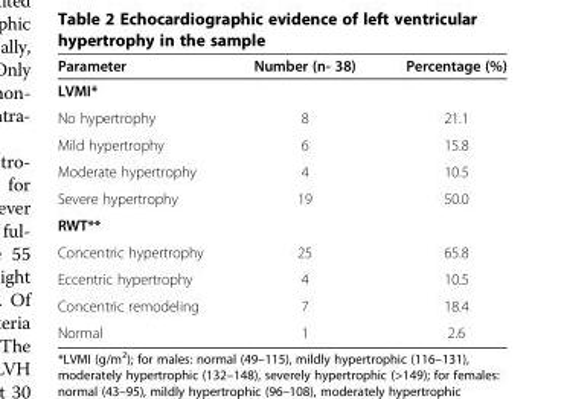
<table><thead><tr><td>Parameter</td><td>Number (n- 38)</td><td>Percentage (%)</td></tr></thead><tbody><tr><td colspan="3">LVMI*</td></tr><tr><td>No hypertrophy</td><td>8</td><td>21.1</td></tr><tr><td>Mild hypertrophy</td><td>6</td><td>15.8</td></tr><tr><td>Moderate hypertrophy</td><td>4</td><td>10.5</td></tr><tr><td>Severe hypertrophy</td><td>19</td><td>50.0</td></tr><tr><td colspan="3">RWT**</td></tr><tr><td>Concentric hypertrophy</td><td>25</td><td>65.8</td></tr><tr><td>Eccentric hypertrophy</td><td>4</td><td>10.5</td></tr><tr><td>Concentric remodeling</td><td>7</td><td>18.4</td></tr><tr><td>Normal</td><td>1</td><td>2.6</td></tr></tbody></table>